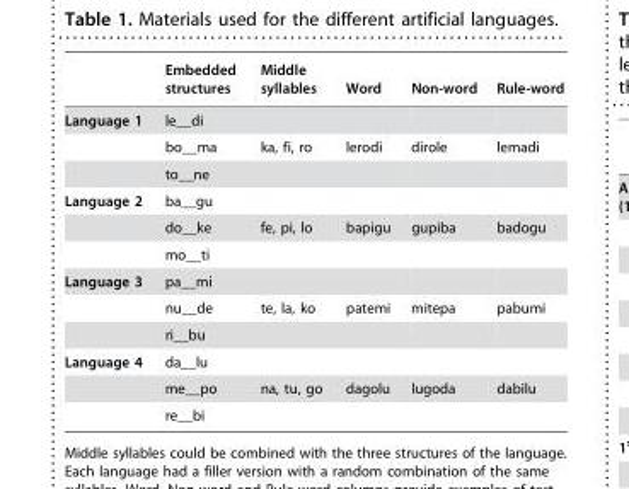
<table><thead><tr><td></td><td>Embedded structures</td><td>Middle syllables</td><td>Word</td><td>Non-word</td><td>Rule-word</td></tr></thead><tbody><tr><td rowspan="3">Language 1</td><td>le__di</td><td></td><td></td><td></td><td></td></tr><tr><td>bo__ma</td><td>ka, fi, ro</td><td>lerodi</td><td>dirole</td><td>lemadi</td></tr><tr><td>to__ne</td><td></td><td></td><td></td><td></td></tr><tr><td rowspan="3">Language 2</td><td>ba__gu</td><td></td><td></td><td></td><td></td></tr><tr><td>do__ke</td><td>fe, pi, lo</td><td>bapigu</td><td>gupiba</td><td>badogu</td></tr><tr><td>mo__ti</td><td></td><td></td><td></td><td></td></tr><tr><td rowspan="3">Language 3</td><td>pa__mi</td><td></td><td></td><td></td><td></td></tr><tr><td>nu__de</td><td>te, la, ko</td><td>patemi</td><td>mitepa</td><td>pabumi</td></tr><tr><td>ri__bu</td><td></td><td></td><td></td><td></td></tr><tr><td rowspan="3">Language 4</td><td>da__lu</td><td></td><td></td><td></td><td></td></tr><tr><td>me__po</td><td>na, tu, go</td><td>dagolu</td><td>lugoda</td><td>dabilu</td></tr><tr><td>re__bi</td><td></td><td></td><td></td><td></td></tr></tbody></table>